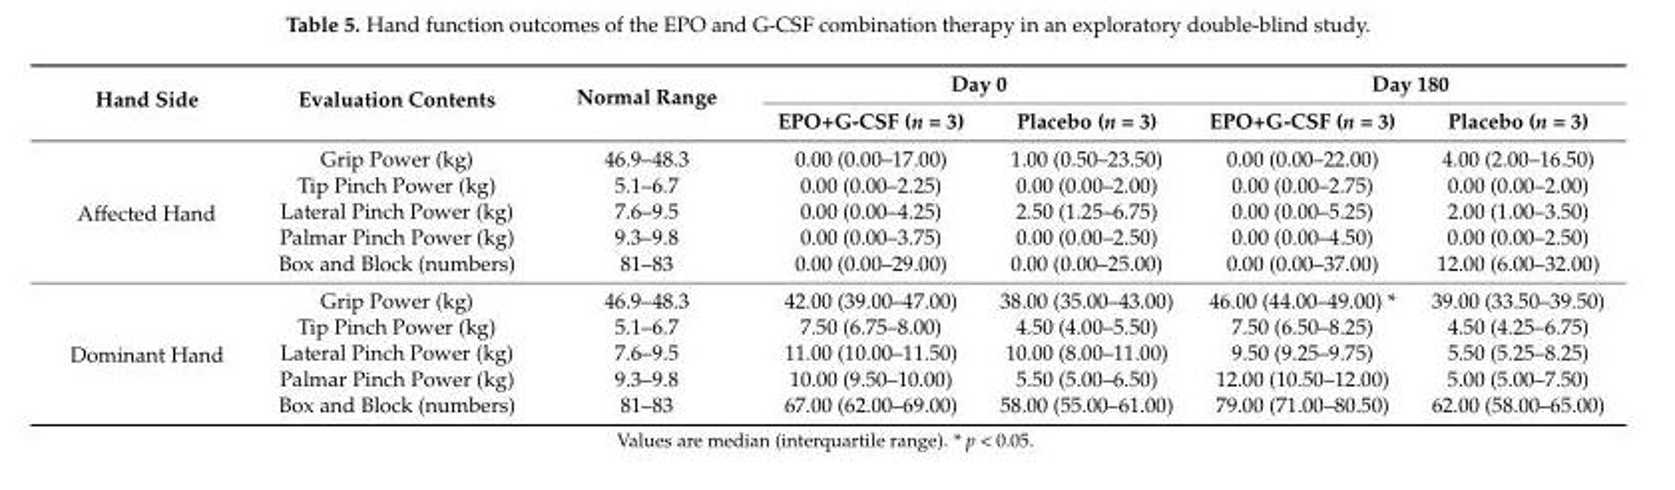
<table><thead><tr><td rowspan="2">Hand Side</td><td rowspan="2">Evaluation Contents</td><td rowspan="2">Normal Range</td><td colspan="2">Day 0</td><td colspan="2">Day 180</td></tr><tr><td>EPO+G-CSF (n = 3)</td><td>Placebo (n = 3)</td><td>EPO+G-CSF (n = 3)</td><td>Placebo (n = 3)</td></tr></thead><tbody><tr><td rowspan="5">Affected Hand</td><td>Grip Power (kg)</td><td>46.9–48.3</td><td>0.00 (0.00–17.00)</td><td>1.00 (0.50–23.50)</td><td>0.00 (0.00–22.00)</td><td>4.00 (2.00–16.50)</td></tr><tr><td>Tip Pinch Power (kg)</td><td>5.1–6.7</td><td>0.00 (0.00–2.25)</td><td>0.00 (0.00–2.00)</td><td>0.00 (0.00–2.75)</td><td>0.00 (0.00–2.00)</td></tr><tr><td>Lateral Pinch Power (kg)</td><td>7.6–9.5</td><td>0.00 (0.00–4.25)</td><td>2.50 (1.25–6.75)</td><td>0.00 (0.00–5.25)</td><td>2.00 (1.00–3.50)</td></tr><tr><td>Palmar Pinch Power (kg)</td><td>9.3–9.8</td><td>0.00 (0.00–3.75)</td><td>0.00 (0.00–2.50)</td><td>0.00 (0.00–4.50)</td><td>0.00 (0.00–2.50)</td></tr><tr><td>Box and Block (numbers)</td><td>81–83</td><td>0.00 (0.00–29.00)</td><td>0.00 (0.00–25.00)</td><td>0.00 (0.00–37.00)</td><td>12.00 (6.00–32.00)</td></tr><tr><td rowspan="5">Dominant Hand</td><td>Grip Power (kg)</td><td>46.9–48.3</td><td>42.00 (39.00–47.00)</td><td>38.00 (35.00–43.00)</td><td>46.00 (44.00–49.00) *</td><td>39.00 (33.50–39.50)</td></tr><tr><td>Tip Pinch Power (kg)</td><td>5.1–6.7</td><td>7.50 (6.75–8.00)</td><td>4.50 (4.00–5.50)</td><td>7.50 (6.50–8.25)</td><td>4.50 (4.25–6.75)</td></tr><tr><td>Lateral Pinch Power (kg)</td><td>7.6–9.5</td><td>11.00 (10.00–11.50)</td><td>10.00 (8.00–11.00)</td><td>9.50 (9.25–9.75)</td><td>5.50 (5.25–8.25)</td></tr><tr><td>Palmar Pinch Power (kg)</td><td>9.3–9.8</td><td>10.00 (9.50–10.00)</td><td>5.50 (5.00–6.50)</td><td>12.00 (10.50–12.00)</td><td>5.00 (5.00–7.50)</td></tr><tr><td>Box and Block (numbers)</td><td>81–83</td><td>67.00 (62.00–69.00)</td><td>58.00 (55.00–61.00)</td><td>79.00 (71.00–80.50)</td><td>62.00 (58.00–65.00)</td></tr></tbody></table>